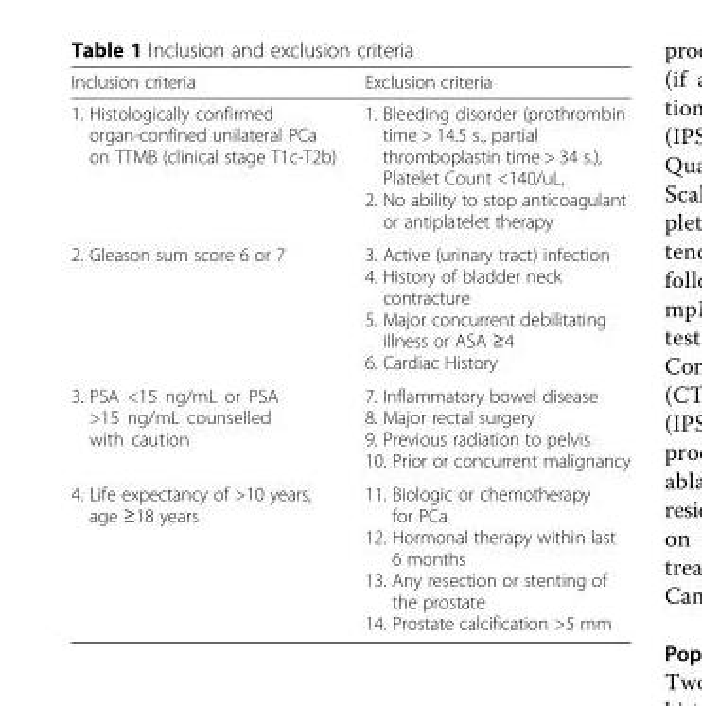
<table><thead><tr><td>Inclusion criteria</td><td>Exclusion criteria</td></tr></thead><tbody><tr><td>1. Histologically confirmed organ-confined unilateral PCa on TTMB (clinical stage T1c-T2b)</td><td>1. Bleeding disorder (prothrombin time &gt; 14.5 s., partial thromboplastin time &gt; 34 s.), Platelet Count &lt;140/uL, 2. No ability to stop anticoagulant or antiplatelet therapy</td></tr><tr><td>2. Gleason sum score 6 or 7</td><td>3. Active (urinary tract) infection 4. History of bladder neck contracture 5. Major concurrent debilitating illness or ASA ≥4 6. Cardiac History</td></tr><tr><td>3. PSA &lt;15 ng/mL or PSA &gt;15 ng/mL counselled with caution</td><td>7. Inflammatory bowel disease 8. Major rectal surgery 9. Previous radiation to pelvis 10. Prior or concurrent malignancy</td></tr><tr><td>4. Life expectancy of &gt;10 years, age ≥18 years</td><td>11. Biologic or chemotherapy for PCa 12. Hormonal therapy within last 6 months 13. Any resection or stenting of the prostate 14. Prostate calcification &gt;5 mm</td></tr></tbody></table>